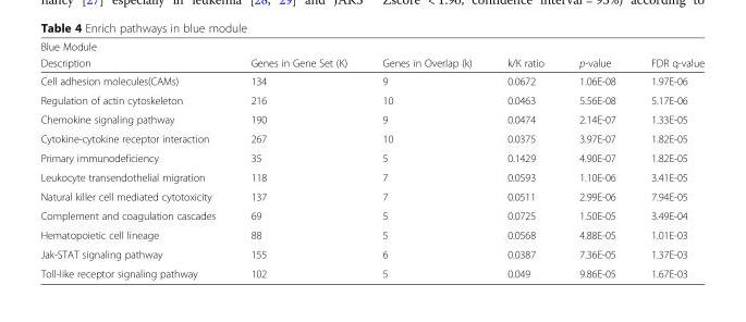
<table><thead><tr><td colspan="6">Blue Module</td></tr><tr><td>Description</td><td>Genes in Gene Set (K)</td><td>Genes in Overlap (k)</td><td>k/K ratio</td><td>p-value</td><td>FDR q-value</td></tr></thead><tbody><tr><td>Cell adhesion molecules(CAMs)</td><td>134</td><td>9</td><td>0.0672</td><td>1.06E-08</td><td>1.97E-06</td></tr><tr><td>Regulation of actin cytoskeleton</td><td>216</td><td>10</td><td>0.0463</td><td>5.56E-08</td><td>5.17E-06</td></tr><tr><td>Chemokine signaling pathway</td><td>190</td><td>9</td><td>0.0474</td><td>2.14E-07</td><td>1.33E-05</td></tr><tr><td>Cytokine-cytokine receptor interaction</td><td>267</td><td>10</td><td>0.0375</td><td>3.97E-07</td><td>1.82E-05</td></tr><tr><td>Primary immunodeficiency</td><td>35</td><td>5</td><td>0.1429</td><td>4.90E-07</td><td>1.82E-05</td></tr><tr><td>Leukocyte transendothelial migration</td><td>118</td><td>7</td><td>0.0593</td><td>1.10E-06</td><td>3.41E-05</td></tr><tr><td>Natural killer cell mediated cytotoxicity</td><td>137</td><td>7</td><td>0.0511</td><td>2.99E-06</td><td>7.94E-05</td></tr><tr><td>Complement and coagulation cascades</td><td>69</td><td>5</td><td>0.0725</td><td>1.50E-05</td><td>3.49E-04</td></tr><tr><td>Hematopoietic cell lineage</td><td>88</td><td>5</td><td>0.0568</td><td>4.88E-05</td><td>1.01E-03</td></tr><tr><td>Jak-STAT signaling pathway</td><td>155</td><td>6</td><td>0.0387</td><td>7.36E-05</td><td>1.37E-03</td></tr><tr><td>Toll-like receptor signaling pathway</td><td>102</td><td>5</td><td>0.049</td><td>9.86E-05</td><td>1.67E-03</td></tr></tbody></table>